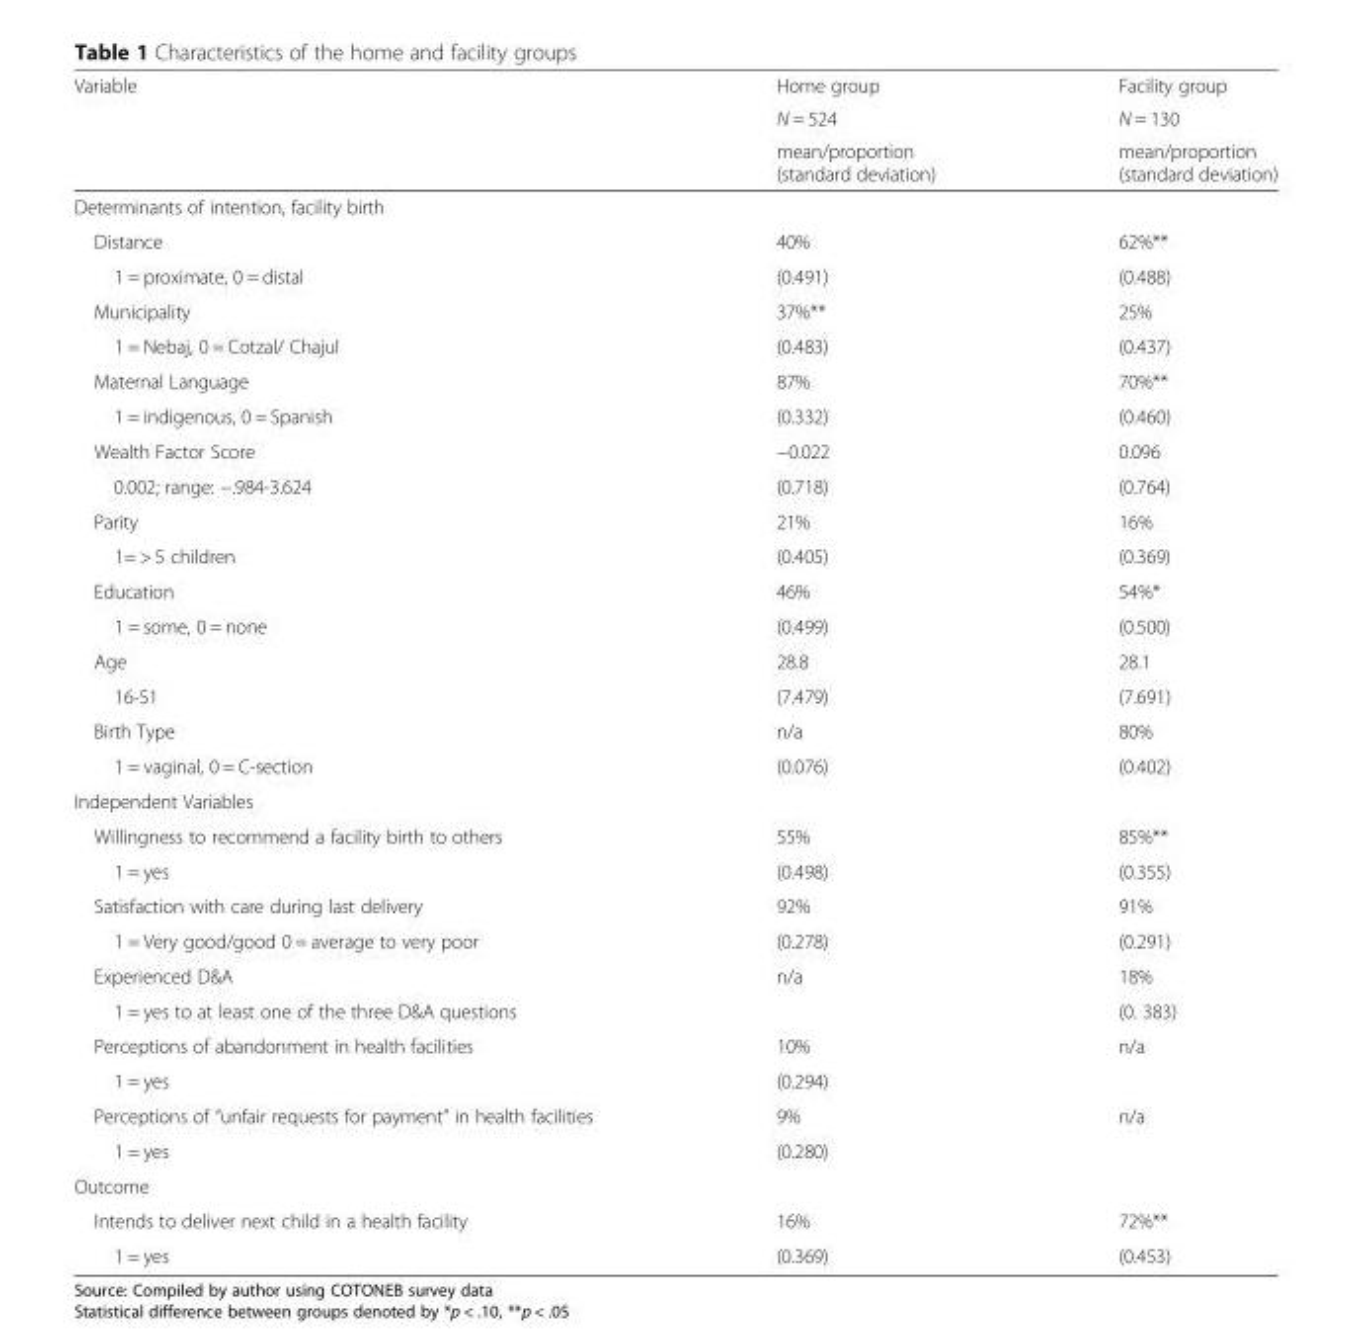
<table><thead><tr><td rowspan="3">Variable</td><td rowspan="3">Home group N = 524 mean/proportion (standard deviation)</td><td rowspan="3">Facility group N = 130 mean/proportion (standard deviation)</td></tr><tr></tr><tr></tr></thead><tbody><tr><td colspan="3">Determinants of intention, facility birth</td></tr><tr><td>Distance</td><td>40%</td><td>62%**</td></tr><tr><td>1 = proximate, 0 = distal</td><td>(0.491)</td><td>(0.488)</td></tr><tr><td>Municipality</td><td>37%**</td><td>25%</td></tr><tr><td>1 = Nebaj, 0 = Cotzal/ Chajul</td><td>(0.483)</td><td>(0.437)</td></tr><tr><td>Maternal Language</td><td>87%</td><td>70%**</td></tr><tr><td>1 = indigenous, 0 = Spanish</td><td>(0.332)</td><td>(0.460)</td></tr><tr><td>Wealth Factor Score</td><td>−0.022</td><td>0.096</td></tr><tr><td>0.002; range: −.984-3.624</td><td>(0.718)</td><td>(0.764)</td></tr><tr><td>Parity</td><td>21%</td><td>16%</td></tr><tr><td>1= &gt; 5 children</td><td>(0.405)</td><td>(0.369)</td></tr><tr><td>Education</td><td>46%</td><td>54%*</td></tr><tr><td>1 = some, 0 = none</td><td>(0.499)</td><td>(0.500)</td></tr><tr><td>Age</td><td>28.8</td><td>28.1</td></tr><tr><td>16-51</td><td>(7.479)</td><td>(7.691)</td></tr><tr><td>Birth Type</td><td>n/a</td><td>80%</td></tr><tr><td>1 = vaginal, 0 = C-section</td><td>(0.076)</td><td>(0.402)</td></tr><tr><td colspan="3">Independent Variables</td></tr><tr><td>Willingness to recommend a facility birth to others</td><td>55%</td><td>85%**</td></tr><tr><td>1 = yes</td><td>(0.498)</td><td>(0.355)</td></tr><tr><td>Satisfaction with care during last delivery</td><td>92%</td><td>91%</td></tr><tr><td>1 = Very good/good 0 = average to very poor</td><td>(0.278)</td><td>(0.291)</td></tr><tr><td>Experienced D&amp;A</td><td>n/a</td><td>18%</td></tr><tr><td>1 = yes to at least one of the three D&amp;A questions</td><td></td><td>(0. 383)</td></tr><tr><td>Perceptions of abandonment in health facilities</td><td>10%</td><td>n/a</td></tr><tr><td>1 = yes</td><td>(0.294)</td><td></td></tr><tr><td>Perceptions of “unfair requests for payment” in health facilities</td><td>9%</td><td>n/a</td></tr><tr><td>1 = yes</td><td>(0.280)</td><td></td></tr><tr><td colspan="3">Outcome</td></tr><tr><td>Intends to deliver next child in a health facility</td><td>16%</td><td>72%**</td></tr><tr><td>1 = yes</td><td>(0.369)</td><td>(0.453)</td></tr></tbody></table>